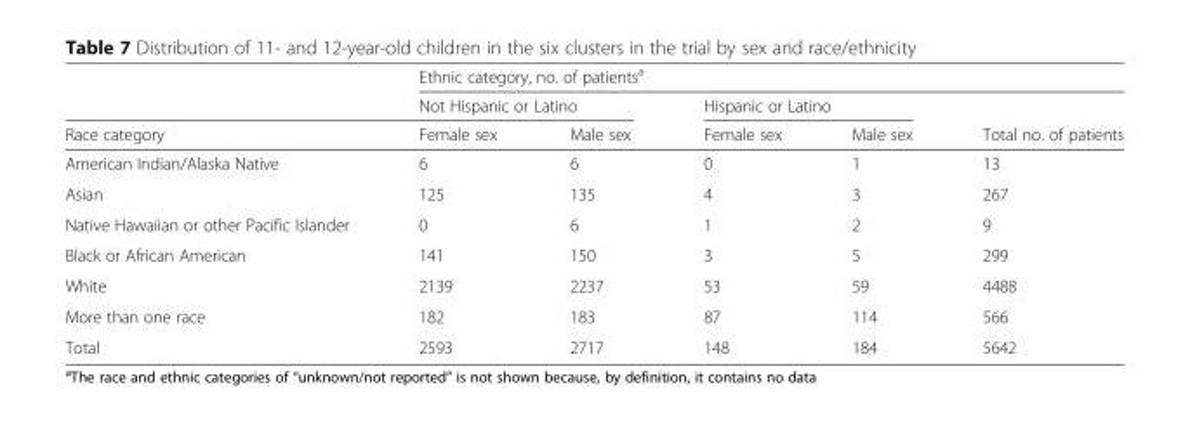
<table><thead><tr><td rowspan="3">Race category</td><td colspan="5">Ethnic category, no. of patients<sup>a</sup></td></tr><tr><td colspan="2">Not Hispanic or Latino</td><td colspan="2">Hispanic or Latino</td><td rowspan="2">Total no. of patients</td></tr><tr><td>Female sex</td><td>Male sex</td><td>Female sex</td><td>Male sex</td></tr></thead><tbody><tr><td>American Indian/Alaska Native</td><td>6</td><td>6</td><td>0</td><td>1</td><td>13</td></tr><tr><td>Asian</td><td>125</td><td>135</td><td>4</td><td>3</td><td>267</td></tr><tr><td>Native Hawaiian or other Pacific Islander</td><td>0</td><td>6</td><td>1</td><td>2</td><td>9</td></tr><tr><td>Black or African American</td><td>141</td><td>150</td><td>3</td><td>5</td><td>299</td></tr><tr><td>White</td><td>2139</td><td>2237</td><td>53</td><td>59</td><td>4488</td></tr><tr><td>More than one race</td><td>182</td><td>183</td><td>87</td><td>114</td><td>566</td></tr><tr><td>Total</td><td>2593</td><td>2717</td><td>148</td><td>184</td><td>5642</td></tr></tbody></table>